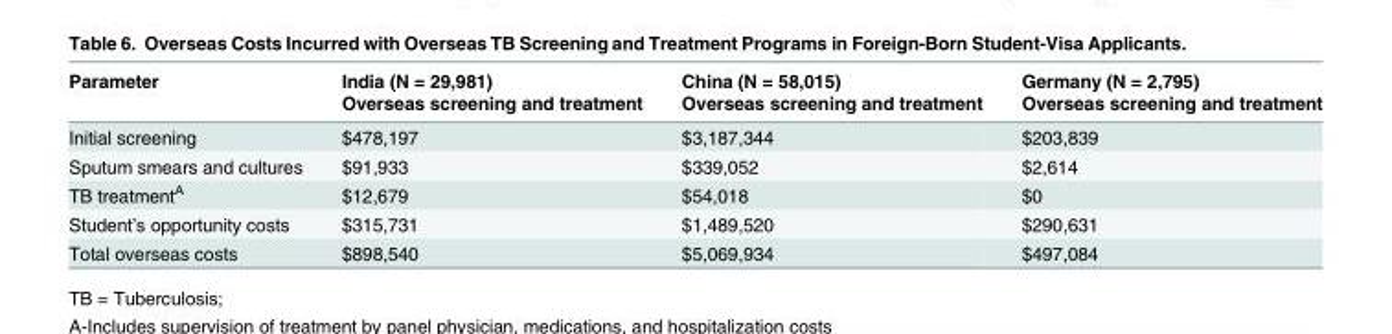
<table><thead><tr><td rowspan="2">Parameter</td><td rowspan="2">India (N = 29,981) Overseas screening and treatment</td><td rowspan="2">China (N = 58,015) Overseas screening and treatment</td><td rowspan="2">Germany (N = 2,795) Overseas screening and treatment</td></tr><tr></tr></thead><tbody><tr><td>Initial screening</td><td>$478,197</td><td>$3,187,344</td><td>$203,839</td></tr><tr><td>Sputum smears and cultures</td><td>$91,933</td><td>$339,052</td><td>$2,614</td></tr><tr><td>TB treatment<sup>A</sup></td><td>$12,679</td><td>$54,018</td><td>$0</td></tr><tr><td>Student’s opportunity costs</td><td>$315,731</td><td>$1,489,520</td><td>$290,631</td></tr><tr><td>Total overseas costs</td><td>$898,540</td><td>$5,069,934</td><td>$497,084</td></tr></tbody></table>